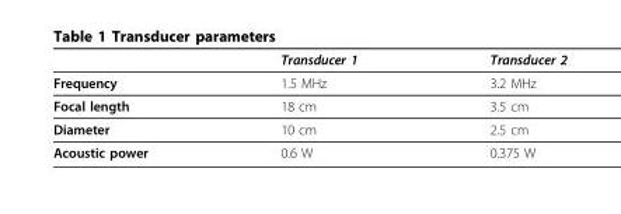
<table><thead><tr><td></td><td>Transducer 1</td><td>Transducer 2</td></tr></thead><tbody><tr><td>Frequency</td><td>1.5 MHz</td><td>3.2 MHz</td></tr><tr><td>Focal length</td><td>18 cm</td><td>3.5 cm</td></tr><tr><td>Diameter</td><td>10 cm</td><td>2.5 cm</td></tr><tr><td>Acoustic power</td><td>0.6 W</td><td>0.375 W</td></tr></tbody></table>